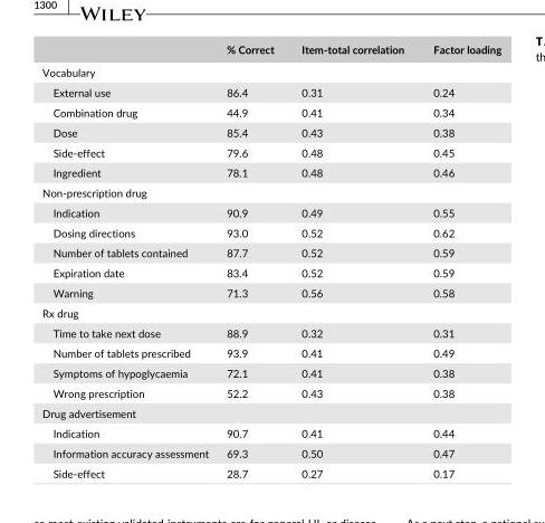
<table><thead><tr><td></td><td>% Correct</td><td>Item- total correlation</td><td>Factor loading</td></tr></thead><tbody><tr><td colspan="4">Vocabulary</td></tr><tr><td>External use</td><td>86.4</td><td>0.31</td><td>0.24</td></tr><tr><td>Combination drug</td><td>44.9</td><td>0.41</td><td>0.34</td></tr><tr><td>Dose</td><td>85.4</td><td>0.43</td><td>0.38</td></tr><tr><td>Side- effect</td><td>79.6</td><td>0.48</td><td>0.45</td></tr><tr><td>Ingredient</td><td>78.1</td><td>0.48</td><td>0.46</td></tr><tr><td colspan="4">Non- prescription drug</td></tr><tr><td>Indication</td><td>90.9</td><td>0.49</td><td>0.55</td></tr><tr><td>Dosing directions</td><td>93.0</td><td>0.52</td><td>0.62</td></tr><tr><td>Number of tablets contained</td><td>87.7</td><td>0.52</td><td>0.59</td></tr><tr><td>Expiration date</td><td>83.4</td><td>0.52</td><td>0.59</td></tr><tr><td>Warning</td><td>71.3</td><td>0.56</td><td>0.58</td></tr><tr><td colspan="4">Rx drug</td></tr><tr><td>Time to take next dose</td><td>88.9</td><td>0.32</td><td>0.31</td></tr><tr><td>Number of tablets prescribed</td><td>93.9</td><td>0.41</td><td>0.49</td></tr><tr><td>Symptoms of hypoglycaemia</td><td>72.1</td><td>0.41</td><td>0.38</td></tr><tr><td>Wrong prescription</td><td>52.2</td><td>0.43</td><td>0.38</td></tr><tr><td colspan="4">Drug advertisement</td></tr><tr><td>Indication</td><td>90.7</td><td>0.41</td><td>0.44</td></tr><tr><td>Information accuracy assessment</td><td>69.3</td><td>0.50</td><td>0.47</td></tr><tr><td>Side- effect</td><td>28.7</td><td>0.27</td><td>0.17</td></tr></tbody></table>